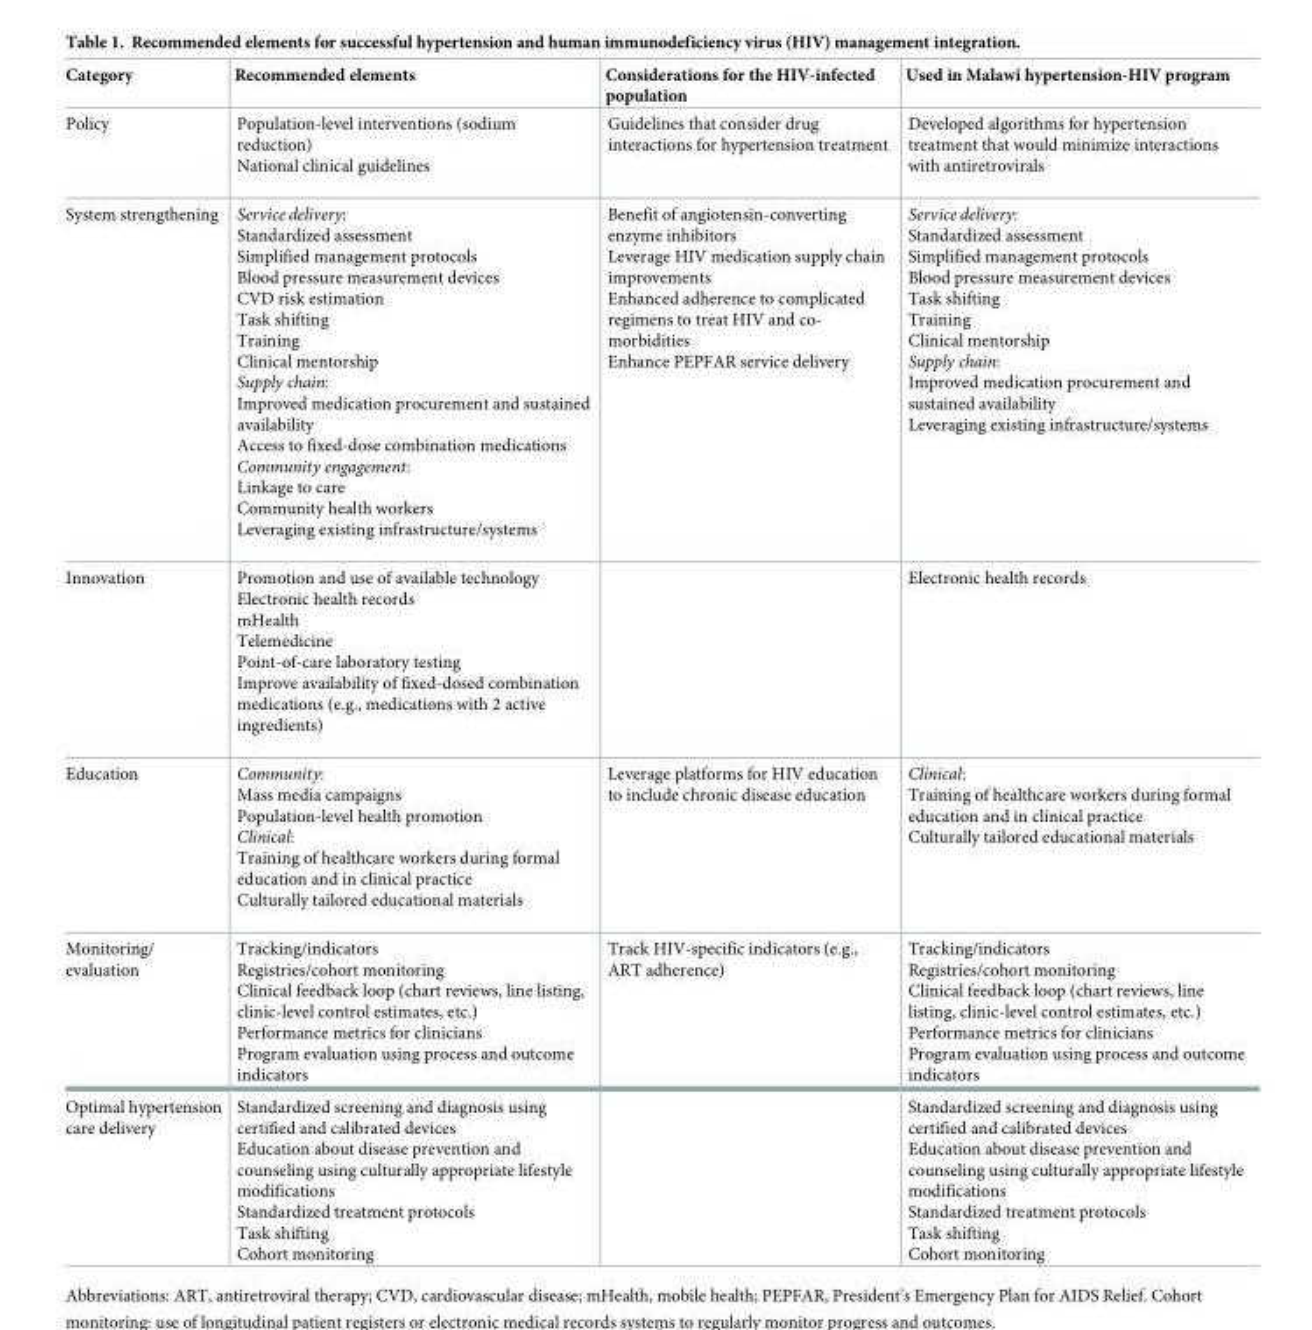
<table><thead><tr><td>Category</td><td>Recommended elements</td><td>Considerations for the HIV-infected population</td><td>Used in Malawi hypertension-HIV program</td></tr></thead><tbody><tr><td>Policy</td><td>Population-level interventions (sodium reduction) National clinical guidelines</td><td>Guidelines that consider drug interactions for hypertension treatment</td><td>Developed algorithms for hypertension treatment that would minimize interactions with antiretrovirals</td></tr><tr><td>System strengthening</td><td>Service delivery: Standardized assessment Simplified management protocols Blood pressure measurement devices CVD risk estimation Task shifting Training Clinical mentorship Supply chain: Improved medication procurement and sustained availability Access to fixed-dose combination medications Community engagement: Linkage to care Community health workers Leveraging existing infrastructure/systems</td><td>Benefit of angiotensin-converting enzyme inhibitors Leverage HIV medication supply chain improvements Enhanced adherence to complicated regimens to treat HIV and co- morbidities Enhance PEPFAR service delivery</td><td>Service delivery: Standardized assessment Simplified management protocols Blood pressure measurement devices Task shifting Training Clinical mentorship Supply chain: Improved medication procurement and sustained availability Leveraging existing infrastructure/systems</td></tr><tr><td>Innovation</td><td>Promotion and use of available technology Electronic health records mHealth Telemedicine Point-of-care laboratory testing Improve availability of fixed-dosed combination medications (e.g., medications with 2 active ingredients)</td><td></td><td>Electronic health records</td></tr><tr><td>Education</td><td>Community: Mass media campaigns Population-level health promotion Clinical: Training of healthcare workers during formal education and in clinical practice Culturally tailored educational materials</td><td>Leverage platforms for HIV education to include chronic disease education</td><td>Clinical: Training of healthcare workers during formal education and in clinical practice Culturally tailored educational materials</td></tr><tr><td>Monitoring/ evaluation</td><td>Tracking/indicators Registries/cohort monitoring Clinical feedback loop (chart reviews, line listing, clinic-level control estimates, etc.) Performance metrics for clinicians Program evaluation using process and outcome indicators</td><td>Track HIV-specific indicators (e.g., ART adherence)</td><td>Tracking/indicators Registries/cohort monitoring Clinical feedback loop (chart reviews, line listing, clinic-level control estimates, etc.) Performance metrics for clinicians Program evaluation using process and outcome indicators</td></tr><tr><td>Optimal hypertension care delivery</td><td>Standardized screening and diagnosis using certified and calibrated devices Education about disease prevention and counseling using culturally appropriate lifestyle modifications Standardized treatment protocols Task shifting Cohort monitoring</td><td></td><td>Standardized screening and diagnosis using certified and calibrated devices Education about disease prevention and counseling using culturally appropriate lifestyle modifications Standardized treatment protocols Task shifting Cohort monitoring</td></tr></tbody></table>